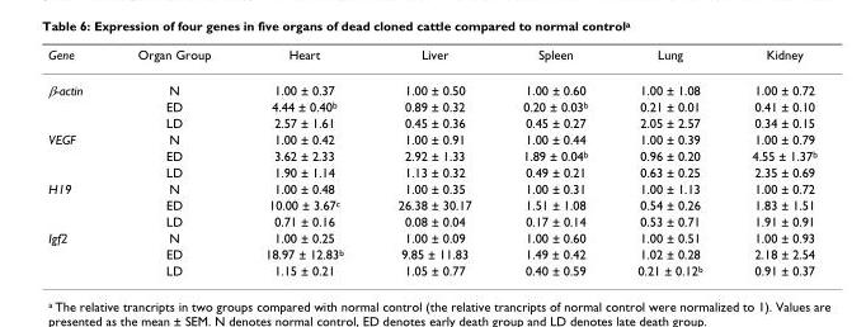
<table><thead><tr><td>Gene</td><td>Organ Group</td><td>Heart</td><td>Liver</td><td>Spleen</td><td>Lung</td><td>Kidney</td></tr></thead><tbody><tr><td rowspan="3">β-actin</td><td>N</td><td>1.00 ± 0.37</td><td>1.00 ± 0.50</td><td>1.00 ± 0.60</td><td>1.00 ± 1.08</td><td>1.00 ± 0.72</td></tr><tr><td>ED</td><td>4.44 ± 0.40<sup>b</sup></td><td>0.89 ± 0.32</td><td>0.20 ± 0.03<sup>b</sup></td><td>0.21 ± 0.01</td><td>0.41 ± 0.10</td></tr><tr><td>LD</td><td>2.57 ± 1.61</td><td>0.45 ± 0.36</td><td>0.45 ± 0.27</td><td>2.05 ± 2.57</td><td>0.34 ± 0.15</td></tr><tr><td rowspan="3">VEGF</td><td>N</td><td>1.00 ± 0.42</td><td>1.00 ± 0.91</td><td>1.00 ± 0.44</td><td>1.00 ± 0.39</td><td>1.00 ± 0.79</td></tr><tr><td>ED</td><td>3.62 ± 2.33</td><td>2.92 ± 1.33</td><td>1.89 ± 0.04<sup>b</sup></td><td>0.96 ± 0.20</td><td>4.55 ± 1.37<sup>b</sup></td></tr><tr><td>LD</td><td>1.90 ± 1.14</td><td>1.13 ± 0.32</td><td>0.49 ± 0.21</td><td>0.63 ± 0.25</td><td>2.35 ± 0.69</td></tr><tr><td rowspan="3">H19</td><td>N</td><td>1.00 ± 0.48</td><td>1.00 ± 0.35</td><td>1.00 ± 0.31</td><td>1.00 ± 1.13</td><td>1.00 ± 0.72</td></tr><tr><td>ED</td><td>10.00 ± 3.67<sup>c</sup></td><td>26.38 ± 30.17</td><td>1.51 ± 1.08</td><td>0.54 ± 0.26</td><td>1.83 ± 1.51</td></tr><tr><td>LD</td><td>0.71 ± 0.16</td><td>0.08 ± 0.04</td><td>0.17 ± 0.14</td><td>0.53 ± 0.71</td><td>1.91 ± 0.91</td></tr><tr><td rowspan="3">Igf2</td><td>N</td><td>1.00 ± 0.25</td><td>1.00 ± 0.09</td><td>1.00 ± 0.60</td><td>1.00 ± 0.51</td><td>1.00 ± 0.93</td></tr><tr><td>ED</td><td>18.97 ± 12.83<sup>b</sup></td><td>9.85 ± 11.83</td><td>1.49 ± 0.42</td><td>1.02 ± 0.28</td><td>2.18 ± 2.54</td></tr><tr><td>LD</td><td>1.15 ± 0.21</td><td>1.05 ± 0.77</td><td>0.40 ± 0.59</td><td>0.21 ± 0.12<sup>b</sup></td><td>0.91 ± 0.37</td></tr></tbody></table>